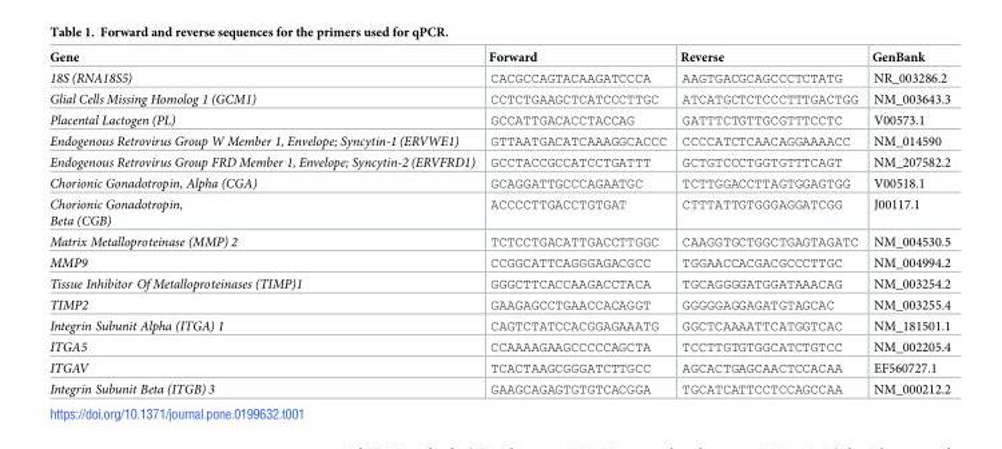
<table><thead><tr><td>Gene</td><td>Forward</td><td>Reverse</td><td>GenBank</td></tr></thead><tbody><tr><td>18S (RNA18S5)</td><td>CACGCCAGTACAAGATCCCA</td><td>AAGTGACGCAGCCCTCTATG</td><td>NR_003286.2</td></tr><tr><td>Glial Cells Missing Homolog 1 (GCM1)</td><td>CCTCTGAAGCTCATCCCTTGC</td><td>ATCATGCTCTCCCTTTGACTGG</td><td>NM_003643.3</td></tr><tr><td>Placental Lactogen (PL)</td><td>GCCATTGACACCTACCAG</td><td>GATTTCTGTTGCGTTTCCTC</td><td>V00573.1</td></tr><tr><td>Endogenous Retrovirus Group W Member 1, Envelope; Syncytin-1 (ERVWE1)</td><td>GTTAATGACATCAAAGGCACCC</td><td>CCCCATCTCAACAGGAAAACC</td><td>NM_014590</td></tr><tr><td>Endogenous Retrovirus Group FRD Member 1, Envelope; Syncytin-2 (ERVFRD1)</td><td>GCCTACCGCCATCCTGATTT</td><td>GCTGTCCCTGGTGTTTCAGT</td><td>NM_207582.2</td></tr><tr><td>Chorionic Gonadotropin, Alpha (CGA)</td><td>GCAGGATTGCCCAGAATGC</td><td>TCTTGGACCTTAGTGGAGTGG</td><td>V00518.1</td></tr><tr><td>Chorionic Gonadotropin, Beta (CGB)</td><td>ACCCCTTGACCTGTGAT</td><td>CTTTATTGTGGGAGGATCGG</td><td>J00117.1</td></tr><tr><td>Matrix Metalloproteinase (MMP) 2</td><td>TCTCCTGACATTGACCTTGGC</td><td>CAAGGTGCTGGCTGAGTAGATC</td><td>NM_004530.5</td></tr><tr><td>MMP9</td><td>CCGGCATTCAGGGAGACGCC</td><td>TGGAACCACGACGCCCTTGC</td><td>NM_004994.2</td></tr><tr><td>Tissue Inhibitor Of Metalloproteinases (TIMP)1</td><td>GGGCTTCACCAAGACCTACA</td><td>TGCAGGGGATGGATAAACAG</td><td>NM_003254.2</td></tr><tr><td>TIMP2</td><td>GAAGAGCCTGAACCACAGGT</td><td>GGGGGAGGAGATGTAGCAC</td><td>NM_003255.4</td></tr><tr><td>Integrin Subunit Alpha (ITGA) 1</td><td>CAGTCTATCCACGGAGAAATG</td><td>GGCTCAAAATTCATGGTCAC</td><td>NM_181501.1</td></tr><tr><td>ITGA5</td><td>CCAAAAGAAGCCCCCAGCTA</td><td>TCCTTGTGTGGCATCTGTCC</td><td>NM_002205.4</td></tr><tr><td>ITGAV</td><td>TCACTAAGCGGGATCTTGCC</td><td>AGCACTGAGCAACTCCACAA</td><td>EF560727.1</td></tr><tr><td>Integrin Subunit Beta (ITGB) 3</td><td>GAAGCAGAGTGTGTCACGGA</td><td>TGCATCATTCCTCCAGCCAA</td><td>NM_000212.2</td></tr></tbody></table>